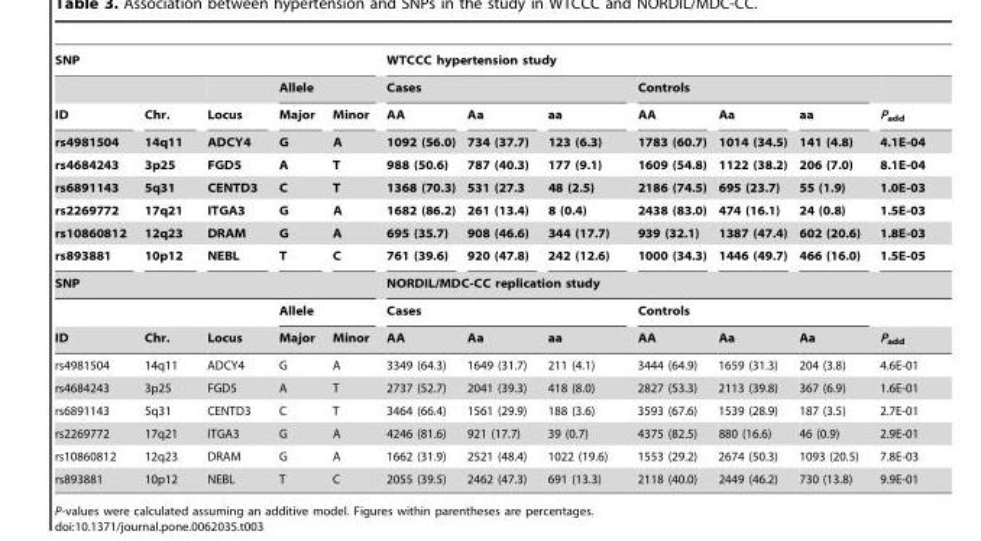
<table><thead><tr><td colspan="5">SNP</td><td colspan="7">WTCCC hypertension study</td></tr><tr><td rowspan="8">ID rs4981504 rs4684243 rs6891143 rs2269772 rs10860812 rs893881</td><td rowspan="8">Chr. 14q11 3p25 5q31 17q21 12q23 10p12</td><td rowspan="8">Locus ADCY4 FGD5 CENTD3 ITGA3 DRAM NEBL</td><td colspan="2">Allele</td><td colspan="3">Cases</td><td colspan="3">Controls</td><td rowspan="8">Padd 4.1E-04 8.1E-04 1.0E-03 1.5E-03 1.8E-03 1.5E-05</td></tr><tr><td rowspan="7">Major G A C G G T</td><td rowspan="7">Minor A T T A A C</td><td rowspan="7">AA 1092 (56.0) 988 (50.6) 1368 (70.3) 1682 (86.2) 695 (35.7) 761 (39.6)</td><td rowspan="7">Aa 734 (37.7) 787 (40.3) 531 (27.3 261 (13.4) 908 (46.6) 920 (47.8)</td><td rowspan="7">aa 123 (6.3) 177 (9.1) 48 (2.5) 8 (0.4) 344 (17.7) 242 (12.6)</td><td rowspan="7">AA 1783 (60.7) 1609 (54.8) 2186 (74.5) 2438 (83.0) 939 (32.1) 1000 (34.3)</td><td rowspan="7">Aa 1014 (34.5) 1122 (38.2) 695 (23.7) 474 (16.1) 1387 (47.4) 1446 (49.7)</td><td rowspan="7">aa 141 (4.8) 206 (7.0) 55 (1.9) 24 (0.8) 602 (20.6) 466 (16.0)</td></tr><tr></tr><tr></tr><tr></tr><tr></tr><tr></tr><tr></tr><tr><td colspan="5">SNP</td><td colspan="7">NORDIL/MDC-CC replication study</td></tr><tr><td rowspan="2">ID</td><td rowspan="2">Chr.</td><td rowspan="2">Locus</td><td colspan="2">Allele</td><td colspan="3">Cases</td><td colspan="3">Controls</td><td rowspan="2">P<sub>add</sub></td></tr><tr><td>Major</td><td>Minor</td><td>AA</td><td>Aa</td><td>aa</td><td>AA</td><td>Aa</td><td>Aa</td></tr></thead><tbody><tr><td>rs4981504</td><td>14q11</td><td>ADCY4</td><td>G</td><td>A</td><td>3349 (64.3)</td><td>1649 (31.7)</td><td>211 (4.1)</td><td>3444 (64.9)</td><td>1659 (31.3)</td><td>204 (3.8)</td><td>4.6E-01</td></tr><tr><td>rs4684243</td><td>3p25</td><td>FGD5</td><td>A</td><td>T</td><td>2737 (52.7)</td><td>2041 (39.3)</td><td>418 (8.0)</td><td>2827 (53.3)</td><td>2113 (39.8)</td><td>367 (6.9)</td><td>1.6E-01</td></tr><tr><td>rs6891143</td><td>5q31</td><td>CENTD3</td><td>C</td><td>T</td><td>3464 (66.4)</td><td>1561 (29.9)</td><td>188 (3.6)</td><td>3593 (67.6)</td><td>1539 (28.9)</td><td>187 (3.5)</td><td>2.7E-01</td></tr><tr><td>rs2269772</td><td>17q21</td><td>ITGA3</td><td>G</td><td>A</td><td>4246 (81.6)</td><td>921 (17.7)</td><td>39 (0.7)</td><td>4375 (82.5)</td><td>880 (16.6)</td><td>46 (0.9)</td><td>2.9E-01</td></tr><tr><td>rs10860812</td><td>12q23</td><td>DRAM</td><td>G</td><td>A</td><td>1662 (31.9)</td><td>2521 (48.4)</td><td>1022 (19.6)</td><td>1553 (29.2)</td><td>2674 (50.3)</td><td>1093 (20.5)</td><td>7.8E-03</td></tr><tr><td>rs893881</td><td>10p12</td><td>NEBL</td><td>T</td><td>C</td><td>2055 (39.5)</td><td>2462 (47.3)</td><td>691 (13.3)</td><td>2118 (40.0)</td><td>2449 (46.2)</td><td>730 (13.8)</td><td>9.9E-01</td></tr></tbody></table>